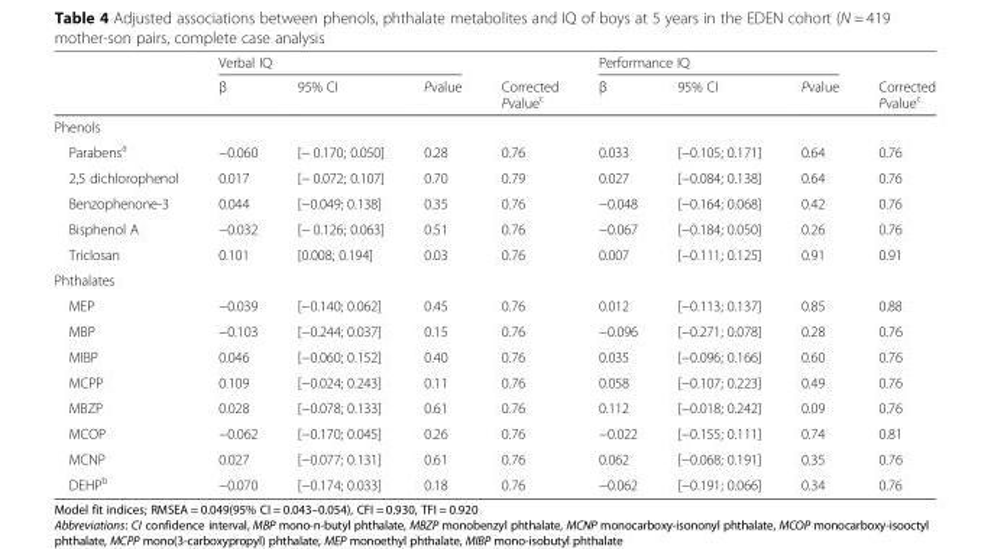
<table><thead><tr><td rowspan="2"></td><td colspan="3">Verbal IQ</td><td rowspan="2">Corrected Pvalue<sup>c</sup></td><td colspan="3">Performance IQ</td><td rowspan="2">Corrected Pvalue<sup>c</sup></td></tr><tr><td>β</td><td>95% CI</td><td>Pvalue</td><td>β</td><td>95% CI</td><td>Pvalue</td></tr></thead><tbody><tr><td colspan="9">Phenols</td></tr><tr><td>Parabens<sup>a</sup></td><td>−0.060</td><td>[− 0.170; 0.050]</td><td>0.28</td><td>0.76</td><td>0.033</td><td>[−0.105; 0.171]</td><td>0.64</td><td>0.76</td></tr><tr><td>2,5 dichlorophenol</td><td>0.017</td><td>[− 0.072; 0.107]</td><td>0.70</td><td>0.79</td><td>0.027</td><td>[−0.084; 0.138]</td><td>0.64</td><td>0.76</td></tr><tr><td>Benzophenone-3</td><td>0.044</td><td>[−0.049; 0.138]</td><td>0.35</td><td>0.76</td><td>−0.048</td><td>[−0.164; 0.068]</td><td>0.42</td><td>0.76</td></tr><tr><td>Bisphenol A</td><td>−0.032</td><td>[− 0.126; 0.063]</td><td>0.51</td><td>0.76</td><td>−0.067</td><td>[−0.184; 0.050]</td><td>0.26</td><td>0.76</td></tr><tr><td>Triclosan</td><td>0.101</td><td>[0.008; 0.194]</td><td>0.03</td><td>0.76</td><td>0.007</td><td>[−0.111; 0.125]</td><td>0.91</td><td>0.91</td></tr><tr><td colspan="9">Phthalates</td></tr><tr><td>MEP</td><td>−0.039</td><td>[−0.140; 0.062]</td><td>0.45</td><td>0.76</td><td>0.012</td><td>[−0.113; 0.137]</td><td>0.85</td><td>0.88</td></tr><tr><td>MBP</td><td>−0.103</td><td>[−0.244; 0.037]</td><td>0.15</td><td>0.76</td><td>−0.096</td><td>[−0.271; 0.078]</td><td>0.28</td><td>0.76</td></tr><tr><td>MIBP</td><td>0.046</td><td>[−0.060; 0.152]</td><td>0.40</td><td>0.76</td><td>0.035</td><td>[−0.096; 0.166]</td><td>0.60</td><td>0.76</td></tr><tr><td>MCPP</td><td>0.109</td><td>[−0.024; 0.243]</td><td>0.11</td><td>0.76</td><td>0.058</td><td>[−0.107; 0.223]</td><td>0.49</td><td>0.76</td></tr><tr><td>MBZP</td><td>0.028</td><td>[−0.078; 0.133]</td><td>0.61</td><td>0.76</td><td>0.112</td><td>[−0.018; 0.242]</td><td>0.09</td><td>0.76</td></tr><tr><td>MCOP</td><td>−0.062</td><td>[−0.170; 0.045]</td><td>0.26</td><td>0.76</td><td>−0.022</td><td>[−0.155; 0.111]</td><td>0.74</td><td>0.81</td></tr><tr><td>MCNP</td><td>0.027</td><td>[−0.077; 0.131]</td><td>0.61</td><td>0.76</td><td>0.062</td><td>[−0.068; 0.191]</td><td>0.35</td><td>0.76</td></tr><tr><td>DEHP<sup>b</sup></td><td>−0.070</td><td>[−0.174; 0.033]</td><td>0.18</td><td>0.76</td><td>−0.062</td><td>[−0.191; 0.066]</td><td>0.34</td><td>0.76</td></tr></tbody></table>